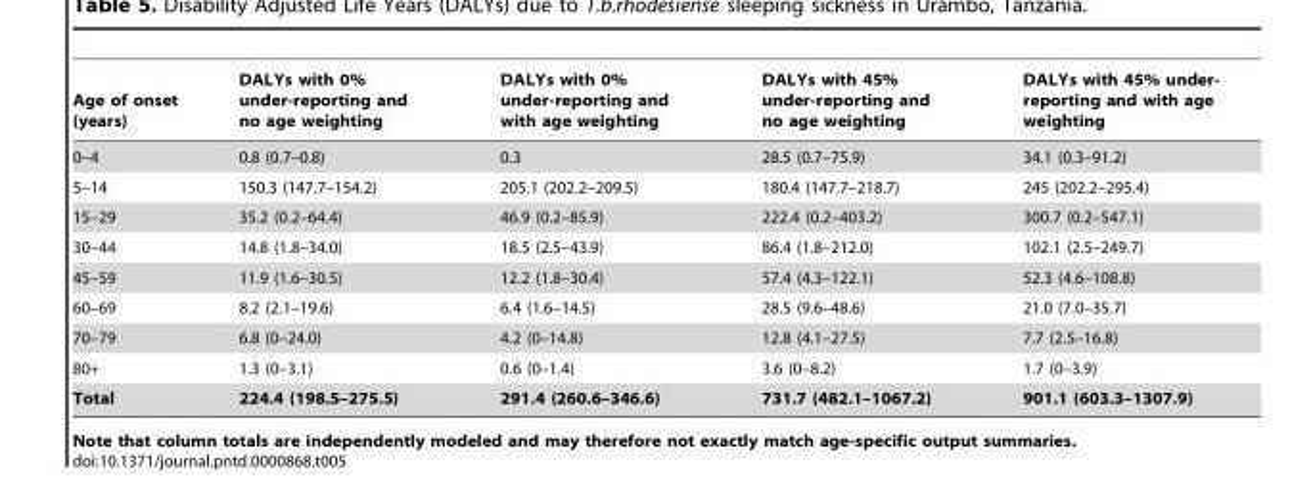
<table><thead><tr><td>Age of onset (years)</td><td>DALYs with 0% under-reporting and no age weighting</td><td>DALYs with 0% under-reporting and with age weighting</td><td>DALYs with 45% under-reporting and no age weighting</td><td>DALYs with 45% under- reporting and with age weighting</td></tr></thead><tbody><tr><td>0–4</td><td>0.8 (0.7–0.8)</td><td>0.3</td><td>28.5 (0.7–75.9)</td><td>34.1 (0.3–91.2)</td></tr><tr><td>5–14</td><td>150.3 (147.7–154.2)</td><td>205.1 (202.2–209.5)</td><td>180.4 (147.7–218.7)</td><td>245 (202.2–295.4)</td></tr><tr><td>15–29</td><td>35.2 (0.2–64.4)</td><td>46.9 (0.2–85.9)</td><td>222.4 (0.2–403.2)</td><td>300.7 (0.2–547.1)</td></tr><tr><td>30–44</td><td>14.8 (1.8–34.0)</td><td>18.5 (2.5–43.9)</td><td>86.4 (1.8–212.0)</td><td>102.1 (2.5–249.7)</td></tr><tr><td>45–59</td><td>11.9 (1.6–30.5)</td><td>12.2 (1.8–30.4)</td><td>57.4 (4.3–122.1)</td><td>52.3 (4.6–108.8)</td></tr><tr><td>60–69</td><td>8.2 (2.1–19.6)</td><td>6.4 (1.6–14.5)</td><td>28.5 (9.6–48.6)</td><td>21.0 (7.0–35.7)</td></tr><tr><td>70–79</td><td>6.8 (0–24.0)</td><td>4.2 (0–14.8)</td><td>12.8 (4.1–27.5)</td><td>7.7 (2.5–16.8)</td></tr><tr><td>80+</td><td>1.3 (0–3.1)</td><td>0.6 (0–1.4)</td><td>3.6 (0–8.2)</td><td>1.7 (0–3.9)</td></tr><tr><td>Total</td><td>224.4 (198.5–275.5)</td><td>291.4 (260.6–346.6)</td><td>731.7 (482.1–1067.2)</td><td>901.1 (603.3–1307.9)</td></tr></tbody></table>